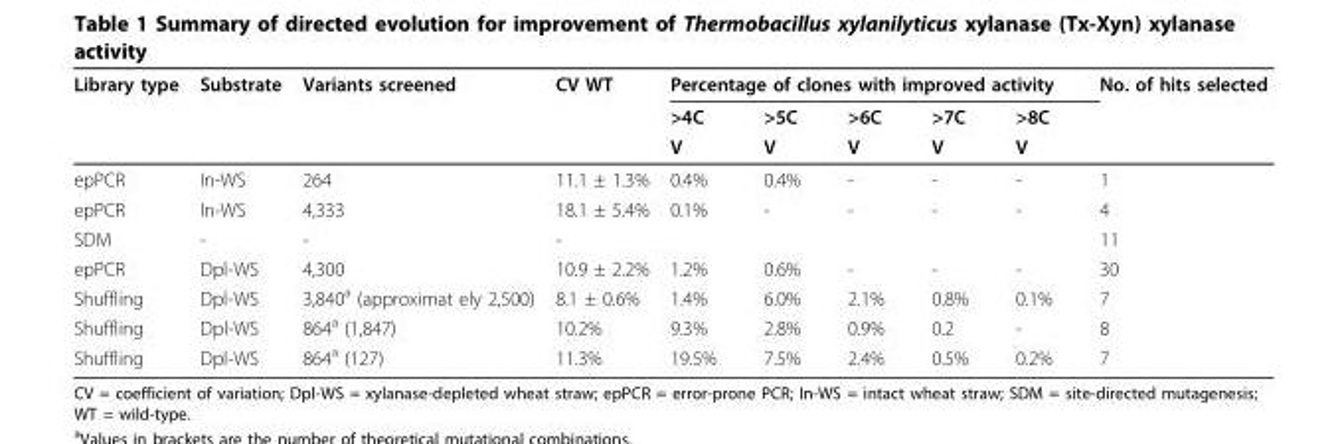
<table><thead><tr><td rowspan="3">Library type</td><td rowspan="3">Substrate</td><td rowspan="3">Variants screened</td><td rowspan="3">CV WT</td><td colspan="5">Percentage of clones with improved activity</td><td rowspan="3">No. of hits selected</td></tr><tr><td rowspan="2">&gt;4C V</td><td rowspan="2">&gt;5C V</td><td rowspan="2">&gt;6C V</td><td rowspan="2">&gt;7C V</td><td rowspan="2">&gt;8C V</td></tr><tr></tr></thead><tbody><tr><td>epPCR</td><td>In-WS</td><td>264</td><td>11.1 ± 1.3%</td><td>0.4%</td><td>0.4%</td><td>-</td><td>-</td><td>-</td><td>1</td></tr><tr><td>epPCR</td><td>In-WS</td><td>4,333</td><td>18.1 ± 5.4%</td><td>0.1%</td><td>-</td><td>-</td><td>-</td><td>-</td><td>4</td></tr><tr><td>SDM</td><td>-</td><td>-</td><td>-</td><td></td><td></td><td></td><td></td><td></td><td>11</td></tr><tr><td>epPCR</td><td>Dpl-WS</td><td>4,300</td><td>10.9 ± 2.2%</td><td>1.2%</td><td>0.6%</td><td>-</td><td>-</td><td>-</td><td>30</td></tr><tr><td>Shuffling</td><td>Dpl-WS</td><td>3,840<sup>a</sup> (approximat ely 2,500)</td><td>8.1 ± 0.6%</td><td>1.4%</td><td>6.0%</td><td>2.1%</td><td>0.8%</td><td>0.1%</td><td>7</td></tr><tr><td>Shuffling</td><td>Dpl-WS</td><td>864<sup>a</sup> (1,847)</td><td>10.2%</td><td>9.3%</td><td>2.8%</td><td>0.9%</td><td>0.2</td><td>-</td><td>8</td></tr><tr><td>Shuffling</td><td>Dpl-WS</td><td>864<sup>a</sup> (127)</td><td>11.3%</td><td>19.5%</td><td>7.5%</td><td>2.4%</td><td>0.5%</td><td>0.2%</td><td>7</td></tr></tbody></table>